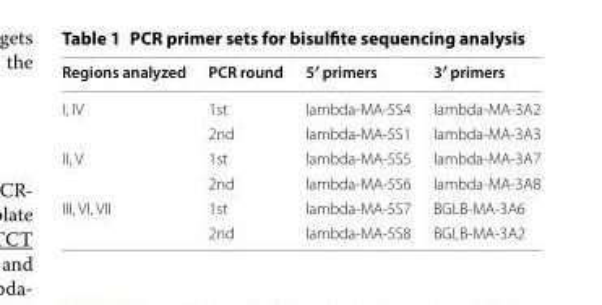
<table><thead><tr><td>Regions analyzed</td><td>PCR round</td><td>5′ primers</td><td>3′ primers</td></tr></thead><tbody><tr><td rowspan="2">I, IV</td><td>1st</td><td>lambda-MA-5S4</td><td>lambda-MA-3A2</td></tr><tr><td>2nd</td><td>lambda-MA-5S1</td><td>lambda-MA-3A3</td></tr><tr><td rowspan="2">II, V</td><td>1st</td><td>lambda-MA-5S5</td><td>lambda-MA-3A7</td></tr><tr><td>2nd</td><td>lambda-MA-5S6</td><td>lambda-MA-3A8</td></tr><tr><td rowspan="2">III, VI, VII</td><td>1st</td><td>lambda-MA-5S7</td><td>BGLB-MA-3A6</td></tr><tr><td>2nd</td><td>lambda-MA-5S8</td><td>BGLB-MA-3A2</td></tr></tbody></table>